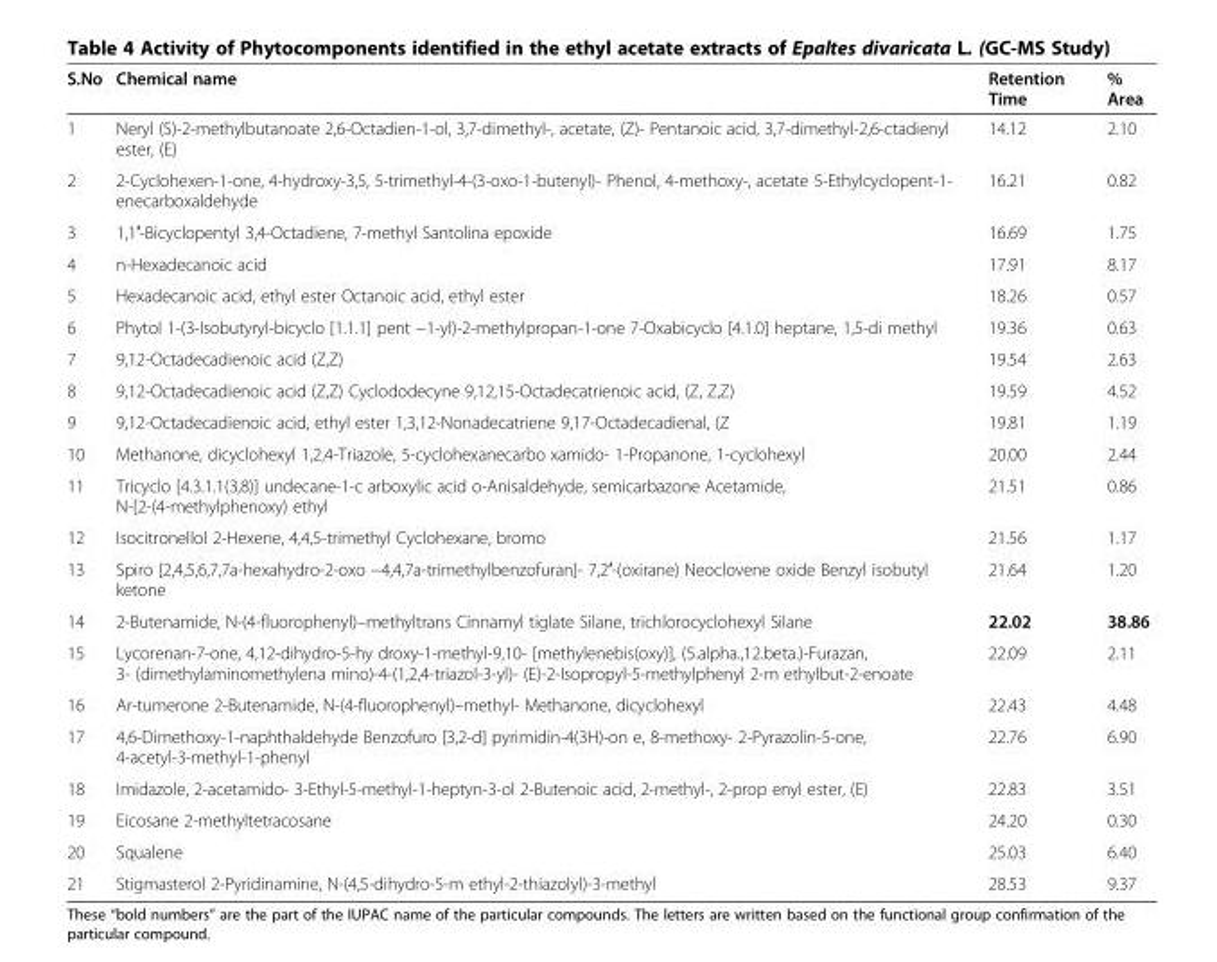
<table><thead><tr><td>S.No</td><td>Chemical name</td><td>Retention Time</td><td>% Area</td></tr></thead><tbody><tr><td>1</td><td>Neryl (S)-2-methylbutanoate 2,6-Octadien-1-ol, 3,7-dimethyl-, acetate, (Z)- Pentanoic acid, 3,7-dimethyl-2,6-ctadienyl ester, (E)</td><td>14.12</td><td>2.10</td></tr><tr><td>2</td><td>2-Cyclohexen-1-one, 4-hydroxy-3,5, 5-trimethyl-4-(3-oxo-1-butenyl)- Phenol, 4-methoxy-, acetate 5-Ethylcyclopent-1- enecarboxaldehyde</td><td>16.21</td><td>0.82</td></tr><tr><td>3</td><td>1,1′-Bicyclopentyl 3,4-Octadiene, 7-methyl Santolina epoxide</td><td>16.69</td><td>1.75</td></tr><tr><td>4</td><td>n-Hexadecanoic acid</td><td>17.91</td><td>8.17</td></tr><tr><td>5</td><td>Hexadecanoic acid, ethyl ester Octanoic acid, ethyl ester</td><td>18.26</td><td>0.57</td></tr><tr><td>6</td><td>Phytol 1-(3-Isobutyryl-bicyclo [1.1.1] pent −1-yl)-2-methylpropan-1-one 7-Oxabicyclo [4.1.0] heptane, 1,5-di methyl</td><td>19.36</td><td>0.63</td></tr><tr><td>7</td><td>9,12-Octadecadienoic acid (Z,Z)</td><td>19.54</td><td>2.63</td></tr><tr><td>8</td><td>9,12-Octadecadienoic acid (Z,Z) Cyclododecyne 9,12,15-Octadecatrienoic acid, (Z, Z,Z)</td><td>19.59</td><td>4.52</td></tr><tr><td>9</td><td>9,12-Octadecadienoic acid, ethyl ester 1,3,12-Nonadecatriene 9,17-Octadecadienal, (Z</td><td>19.81</td><td>1.19</td></tr><tr><td>10</td><td>Methanone, dicyclohexyl 1,2,4-Triazole, 5-cyclohexanecarbo xamido- 1-Propanone, 1-cyclohexyl</td><td>20.00</td><td>2.44</td></tr><tr><td>11</td><td>Tricyclo [4.3.1.1(3,8)] undecane-1-c arboxylic acid o-Anisaldehyde, semicarbazone Acetamide, N-[2-(4-methylphenoxy) ethyl</td><td>21.51</td><td>0.86</td></tr><tr><td>12</td><td>Isocitronellol 2-Hexene, 4,4,5-trimethyl Cyclohexane, bromo</td><td>21.56</td><td>1.17</td></tr><tr><td>13</td><td>Spiro [2,4,5,6,7,7a-hexahydro-2-oxo −4,4,7a-trimethylbenzofuran]- 7,2′-(oxirane) Neoclovene oxide Benzyl isobutyl ketone</td><td>21.64</td><td>1.20</td></tr><tr><td>14</td><td>2-Butenamide, N-(4-fluorophenyl)–methyltrans Cinnamyl tiglate Silane, trichlorocyclohexyl Silane</td><td>22.02</td><td>38.86</td></tr><tr><td>15</td><td>Lycorenan-7-one, 4,12-dihydro-5-hy droxy-1-methyl-9,10- [methylenebis(oxy)], (5.alpha.,12.beta.)-Furazan, 3- (dimethylaminomethylena mino)-4-(1,2,4-triazol-3-yl)- (E)-2-Isopropyl-5-methylphenyl 2-m ethylbut-2-enoate</td><td>22.09</td><td>2.11</td></tr><tr><td>16</td><td>Ar-tumerone 2-Butenamide, N-(4-fluorophenyl)–methyl- Methanone, dicyclohexyl</td><td>22.43</td><td>4.48</td></tr><tr><td>17</td><td>4,6-Dimethoxy-1-naphthaldehyde Benzofuro [3,2-d] pyrimidin-4(3H)-on e, 8-methoxy- 2-Pyrazolin-5-one, 4-acetyl-3-methyl-1-phenyl</td><td>22.76</td><td>6.90</td></tr><tr><td>18</td><td>Imidazole, 2-acetamido- 3-Ethyl-5-methyl-1-heptyn-3-ol 2-Butenoic acid, 2-methyl-, 2-prop enyl ester, (E)</td><td>22.83</td><td>3.51</td></tr><tr><td>19</td><td>Eicosane 2-methyltetracosane</td><td>24.20</td><td>0.30</td></tr><tr><td>20</td><td>Squalene</td><td>25.03</td><td>6.40</td></tr><tr><td>21</td><td>Stigmasterol 2-Pyridinamine, N-(4,5-dihydro-5-m ethyl-2-thiazolyl)-3-methyl</td><td>28.53</td><td>9.37</td></tr></tbody></table>